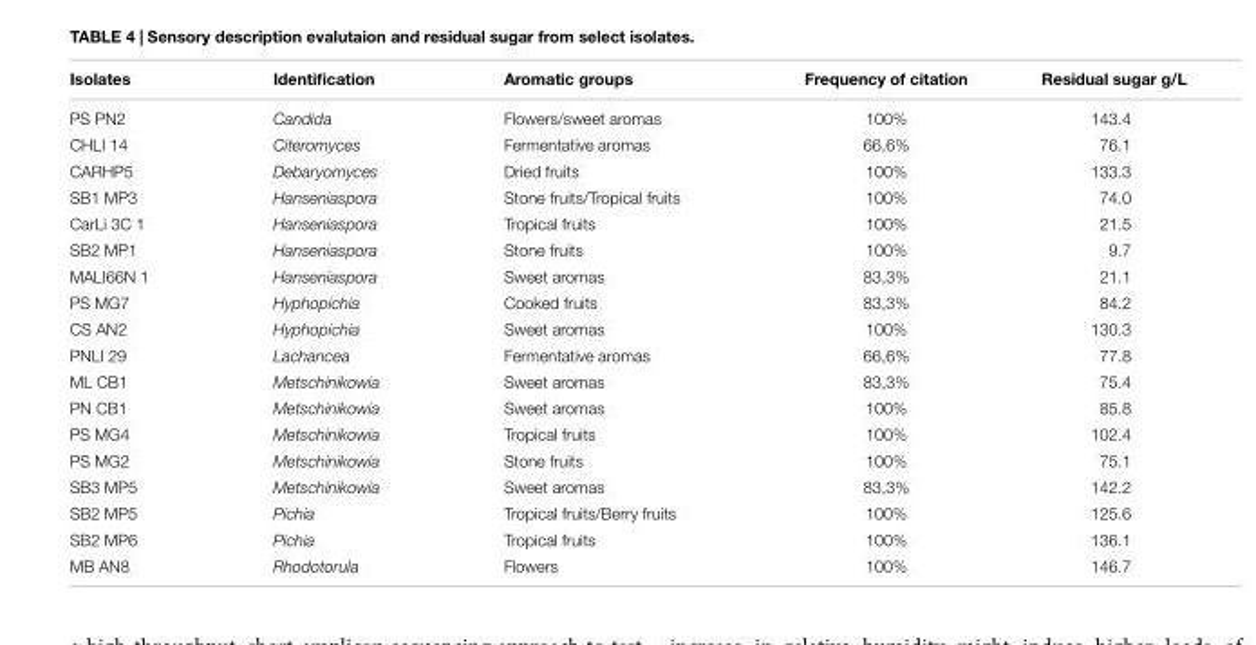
<table><thead><tr><td>Isolates</td><td>Identification</td><td>Aromatic groups</td><td>Frequency of citation</td><td>Residual sugar g/L</td></tr></thead><tbody><tr><td>PS PN2</td><td>Candida</td><td>Flowers/sweet aromas</td><td>100%</td><td>143.4</td></tr><tr><td>CHLI 14</td><td>Citeromyces</td><td>Fermentative aromas</td><td>66,6%</td><td>76.1</td></tr><tr><td>CARHP5</td><td>Debaryomyces</td><td>Dried fruits</td><td>100%</td><td>133.3</td></tr><tr><td>SB1 MP3</td><td>Hanseniaspora</td><td>Stone fruits/Tropical fruits</td><td>100%</td><td>74.0</td></tr><tr><td>CarLi 3C 1</td><td>Hanseniaspora</td><td>Tropical fruits</td><td>100%</td><td>21.5</td></tr><tr><td>SB2 MP1</td><td>Hanseniaspora</td><td>Stone fruits</td><td>100%</td><td>9.7</td></tr><tr><td>MALI66N 1</td><td>Hanseniaspora</td><td>Sweet aromas</td><td>83,3%</td><td>21.1</td></tr><tr><td>PS MG7</td><td>Hyphopichia</td><td>Cooked fruits</td><td>83,3%</td><td>84.2</td></tr><tr><td>CS AN2</td><td>Hyphopichia</td><td>Sweet aromas</td><td>100%</td><td>130.3</td></tr><tr><td>PNLI 29</td><td>Lachancea</td><td>Fermentative aromas</td><td>66,6%</td><td>77.8</td></tr><tr><td>ML CB1</td><td>Metschinikowia</td><td>Sweet aromas</td><td>83,3%</td><td>75.4</td></tr><tr><td>PN CB1</td><td>Metschinikowia</td><td>Sweet aromas</td><td>100%</td><td>85.8</td></tr><tr><td>PS MG4</td><td>Metschinikowia</td><td>Tropical fruits</td><td>100%</td><td>102.4</td></tr><tr><td>PS MG2</td><td>Metschinikowia</td><td>Stone fruits</td><td>100%</td><td>75.1</td></tr><tr><td>SB3 MP5</td><td>Metschinikowia</td><td>Sweet aromas</td><td>83,3%</td><td>142.2</td></tr><tr><td>SB2 MP5</td><td>Pichia</td><td>Tropical fruits/Berry fruits</td><td>100%</td><td>125.6</td></tr><tr><td>SB2 MP6</td><td>Pichia</td><td>Tropical fruits</td><td>100%</td><td>136.1</td></tr><tr><td>MB AN8</td><td>Rhodotorula</td><td>Flowers</td><td>100%</td><td>146.7</td></tr></tbody></table>